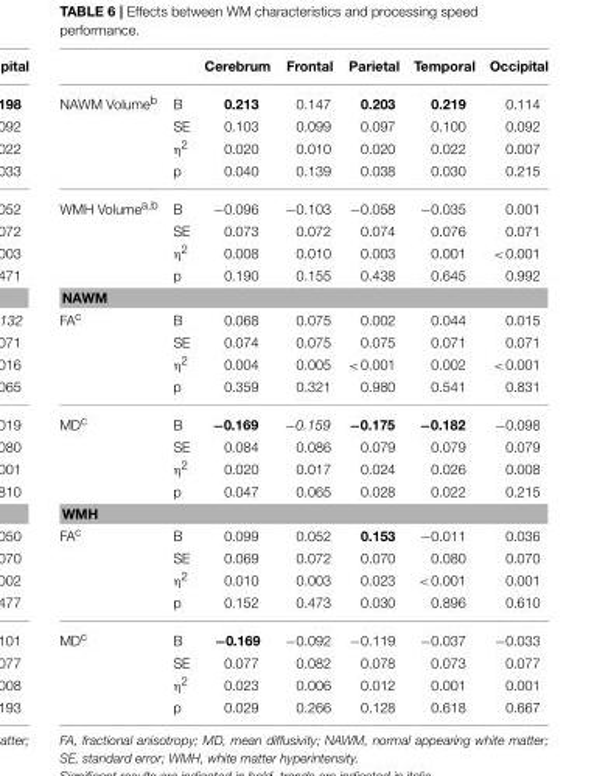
<table><thead><tr><td></td><td></td><td>Cerebrum</td><td>Frontal</td><td>Parietal</td><td>Temporal</td><td>Occipital</td></tr></thead><tbody><tr><td rowspan="4">NAWM Volume<sup>b</sup></td><td>B</td><td>0.213</td><td>0.147</td><td>0.203</td><td>0.219</td><td>0.114</td></tr><tr><td>SE</td><td>0.103</td><td>0.099</td><td>0.097</td><td>0.100</td><td>0.092</td></tr><tr><td>η<sup>2</sup></td><td>0.020</td><td>0.010</td><td>0.020</td><td>0.022</td><td>0.007</td></tr><tr><td>p</td><td>0.040</td><td>0.139</td><td>0.038</td><td>0.030</td><td>0.215</td></tr><tr><td rowspan="4">WMH Volume<sup>a,b</sup></td><td>B</td><td>−0.096</td><td>−0.103</td><td>−0.058</td><td>−0.035</td><td>0.001</td></tr><tr><td>SE</td><td>0.073</td><td>0.072</td><td>0.074</td><td>0.076</td><td>0.071</td></tr><tr><td>η<sup>2</sup></td><td>0.008</td><td>0.010</td><td>0.003</td><td>0.001</td><td>&lt;0.001</td></tr><tr><td>p</td><td>0.190</td><td>0.155</td><td>0.438</td><td>0.645</td><td>0.992</td></tr><tr><td colspan="7">NAWM</td></tr><tr><td rowspan="4">FA<sup>c</sup></td><td>B</td><td>0.068</td><td>0.075</td><td>0.002</td><td>0.044</td><td>0.015</td></tr><tr><td>SE</td><td>0.074</td><td>0.075</td><td>0.075</td><td>0.071</td><td>0.071</td></tr><tr><td>η<sup>2</sup></td><td>0.004</td><td>0.005</td><td>&lt;0.001</td><td>0.002</td><td>&lt;0.001</td></tr><tr><td>p</td><td>0.359</td><td>0.321</td><td>0.980</td><td>0.541</td><td>0.831</td></tr><tr><td rowspan="4">MD<sup>c</sup></td><td>B</td><td>−0.169</td><td>−0.159</td><td>−0.175</td><td>−0.182</td><td>−0.098</td></tr><tr><td>SE</td><td>0.084</td><td>0.086</td><td>0.079</td><td>0.079</td><td>0.079</td></tr><tr><td>η<sup>2</sup></td><td>0.020</td><td>0.017</td><td>0.024</td><td>0.026</td><td>0.008</td></tr><tr><td>p</td><td>0.047</td><td>0.065</td><td>0.028</td><td>0.022</td><td>0.215</td></tr><tr><td colspan="7">WMH</td></tr><tr><td rowspan="4">FA<sup>c</sup></td><td>B</td><td>0.099</td><td>0.052</td><td>0.153</td><td>−0.011</td><td>0.036</td></tr><tr><td>SE</td><td>0.069</td><td>0.072</td><td>0.070</td><td>0.080</td><td>0.070</td></tr><tr><td>η<sup>2</sup></td><td>0.010</td><td>0.003</td><td>0.023</td><td>&lt;0.001</td><td>0.001</td></tr><tr><td>p</td><td>0.152</td><td>0.473</td><td>0.030</td><td>0.896</td><td>0.610</td></tr><tr><td rowspan="4">MD<sup>c</sup></td><td>B</td><td>−0.169</td><td>−0.092</td><td>−0.119</td><td>−0.037</td><td>−0.033</td></tr><tr><td>SE</td><td>0.077</td><td>0.082</td><td>0.078</td><td>0.073</td><td>0.077</td></tr><tr><td>η<sup>2</sup></td><td>0.023</td><td>0.006</td><td>0.012</td><td>0.001</td><td>0.001</td></tr><tr><td>p</td><td>0.029</td><td>0.266</td><td>0.128</td><td>0.618</td><td>0.667</td></tr></tbody></table>